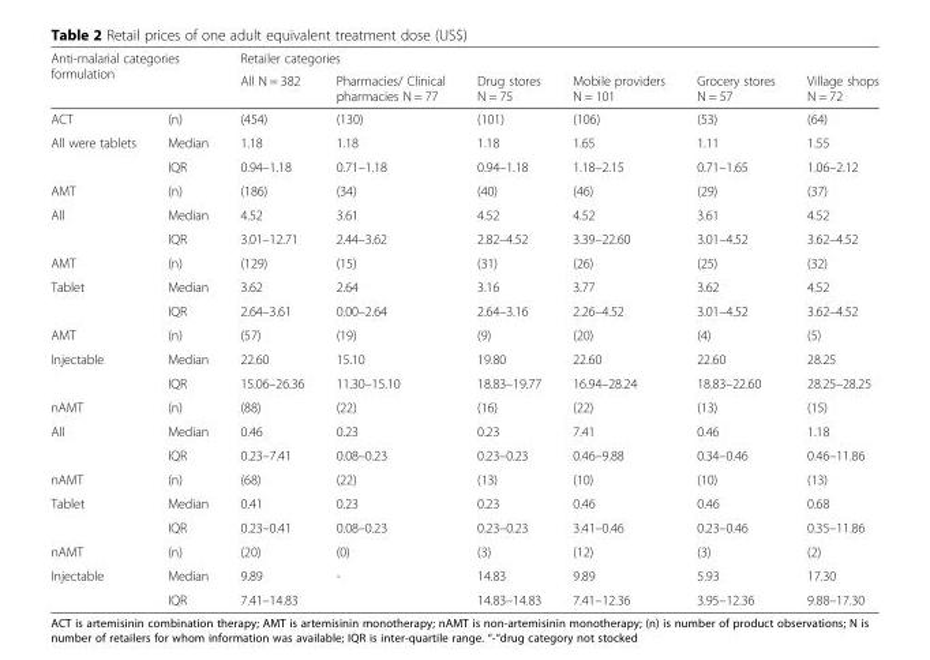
<table><thead><tr><td rowspan="2" colspan="2">Anti-malarial categories formulation</td><td colspan="6">Retailer categories</td></tr><tr><td rowspan="2">All N = 382 (454)</td><td rowspan="2">Pharmacies/ Clinical pharmacies N = 77 (130)</td><td rowspan="2">Drug stores N = 75 (101)</td><td rowspan="2">Mobile providers N = 101 (106)</td><td rowspan="2">Grocery stores N = 57 (53)</td><td rowspan="2">Village shops N = 72 (64)</td></tr><tr><td>ACT</td><td>(n)</td></tr></thead><tbody><tr><td rowspan="2">All were tablets</td><td>Median</td><td>1.18</td><td>1.18</td><td>1.18</td><td>1.65</td><td>1.11</td><td>1.55</td></tr><tr><td>IQR</td><td>0.94–1.18</td><td>0.71–1.18</td><td>0.94–1.18</td><td>1.18–2.15</td><td>0.71–1.65</td><td>1.06–2.12</td></tr><tr><td>AMT</td><td>(n)</td><td>(186)</td><td>(34)</td><td>(40)</td><td>(46)</td><td>(29)</td><td>(37)</td></tr><tr><td rowspan="2">All</td><td>Median</td><td>4.52</td><td>3.61</td><td>4.52</td><td>4.52</td><td>3.61</td><td>4.52</td></tr><tr><td>IQR</td><td>3.01–12.71</td><td>2.44–3.62</td><td>2.82–4.52</td><td>3.39–22.60</td><td>3.01–4.52</td><td>3.62–4.52</td></tr><tr><td>AMT</td><td>(n)</td><td>(129)</td><td>(15)</td><td>(31)</td><td>(26)</td><td>(25)</td><td>(32)</td></tr><tr><td rowspan="2">Tablet</td><td>Median</td><td>3.62</td><td>2.64</td><td>3.16</td><td>3.77</td><td>3.62</td><td>4.52</td></tr><tr><td>IQR</td><td>2.64–3.61</td><td>0.00–2.64</td><td>2.64–3.16</td><td>2.26–4.52</td><td>3.01–4.52</td><td>3.62–4.52</td></tr><tr><td>AMT</td><td>(n)</td><td>(57)</td><td>(19)</td><td>(9)</td><td>(20)</td><td>(4)</td><td>(5)</td></tr><tr><td rowspan="2">Injectable</td><td>Median</td><td>22.60</td><td>15.10</td><td>19.80</td><td>22.60</td><td>22.60</td><td>28.25</td></tr><tr><td>IQR</td><td>15.06–26.36</td><td>11.30–15.10</td><td>18.83–19.77</td><td>16.94–28.24</td><td>18.83–22.60</td><td>28.25–28.25</td></tr><tr><td>nAMT</td><td>(n)</td><td>(88)</td><td>(22)</td><td>(16)</td><td>(22)</td><td>(13)</td><td>(15)</td></tr><tr><td rowspan="2">All</td><td>Median</td><td>0.46</td><td>0.23</td><td>0.23</td><td>7.41</td><td>0.46</td><td>1.18</td></tr><tr><td>IQR</td><td>0.23–7.41</td><td>0.08–0.23</td><td>0.23–0.23</td><td>0.46–9.88</td><td>0.34–0.46</td><td>0.46–11.86</td></tr><tr><td>nAMT</td><td>(n)</td><td>(68)</td><td>(22)</td><td>(13)</td><td>(10)</td><td>(10)</td><td>(13)</td></tr><tr><td rowspan="2">Tablet</td><td>Median</td><td>0.41</td><td>0.23</td><td>0.23</td><td>0.46</td><td>0.46</td><td>0.68</td></tr><tr><td>IQR</td><td>0.23–0.41</td><td>0.08–0.23</td><td>0.23–0.23</td><td>3.41–0.46</td><td>0.23–0.46</td><td>0.35–11.86</td></tr><tr><td>nAMT</td><td>(n)</td><td>(20)</td><td>(0)</td><td>(3)</td><td>(12)</td><td>(3)</td><td>(2)</td></tr><tr><td rowspan="2">Injectable</td><td>Median</td><td>9.89</td><td>-</td><td>14.83</td><td>9.89</td><td>5.93</td><td>17.30</td></tr><tr><td>IQR</td><td>7.41–14.83</td><td></td><td>14.83–14.83</td><td>7.41–12.36</td><td>3.95–12.36</td><td>9.88–17.30</td></tr></tbody></table>